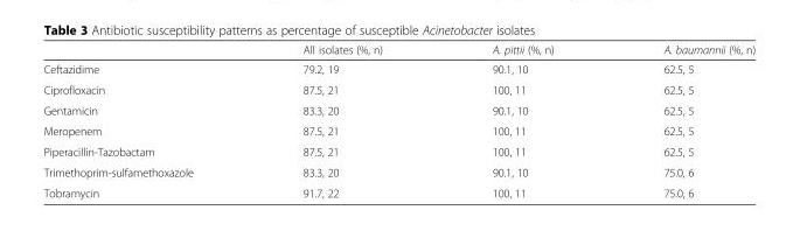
<table><thead><tr><td></td><td>All isolates (%, n)</td><td>A. pittii (%, n)</td><td>A. baumannii (%, n)</td></tr></thead><tbody><tr><td>Ceftazidime</td><td>79.2, 19</td><td>90.1, 10</td><td>62.5, 5</td></tr><tr><td>Ciprofloxacin</td><td>87.5, 21</td><td>100, 11</td><td>62.5, 5</td></tr><tr><td>Gentamicin</td><td>83.3, 20</td><td>90.1, 10</td><td>62.5, 5</td></tr><tr><td>Meropenem</td><td>87.5, 21</td><td>100, 11</td><td>62.5, 5</td></tr><tr><td>Piperacillin-Tazobactam</td><td>87.5, 21</td><td>100, 11</td><td>62.5, 5</td></tr><tr><td>Trimethoprim-sulfamethoxazole</td><td>83.3, 20</td><td>90.1, 10</td><td>75.0, 6</td></tr><tr><td>Tobramycin</td><td>91.7, 22</td><td>100, 11</td><td>75.0, 6</td></tr></tbody></table>